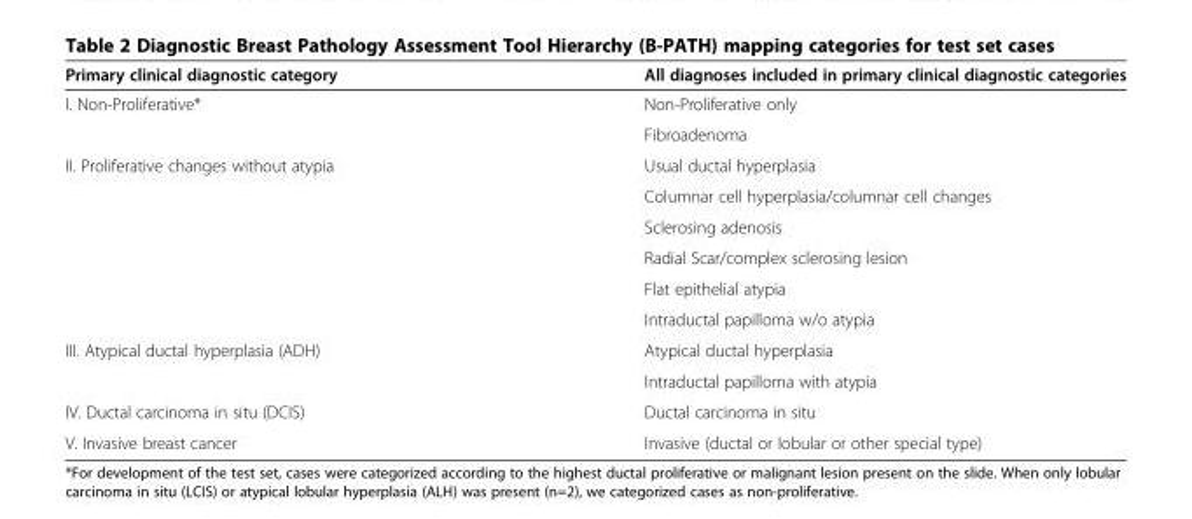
<table><thead><tr><td>Primary clinical diagnostic category</td><td>All diagnoses included in primary clinical diagnostic categories</td></tr></thead><tbody><tr><td rowspan="2">I. Non-Proliferative*</td><td>Non-Proliferative only</td></tr><tr><td>Fibroadenoma</td></tr><tr><td rowspan="6">II. Proliferative changes without atypia</td><td>Usual ductal hyperplasia</td></tr><tr><td>Columnar cell hyperplasia/columnar cell changes</td></tr><tr><td>Sclerosing adenosis</td></tr><tr><td>Radial Scar/complex sclerosing lesion</td></tr><tr><td>Flat epithelial atypia</td></tr><tr><td>Intraductal papilloma w/o atypia</td></tr><tr><td rowspan="2">III. Atypical ductal hyperplasia (ADH)</td><td>Atypical ductal hyperplasia</td></tr><tr><td>Intraductal papilloma with atypia</td></tr><tr><td>IV. Ductal carcinoma in situ (DCIS)</td><td>Ductal carcinoma in situ</td></tr><tr><td>V. Invasive breast cancer</td><td>Invasive (ductal or lobular or other special type)</td></tr></tbody></table>